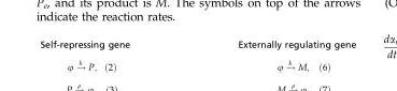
<table><thead><tr><td>Self-repressing gene</td><td>Externally regulating gene</td></tr></thead><tbody></tbody></table>